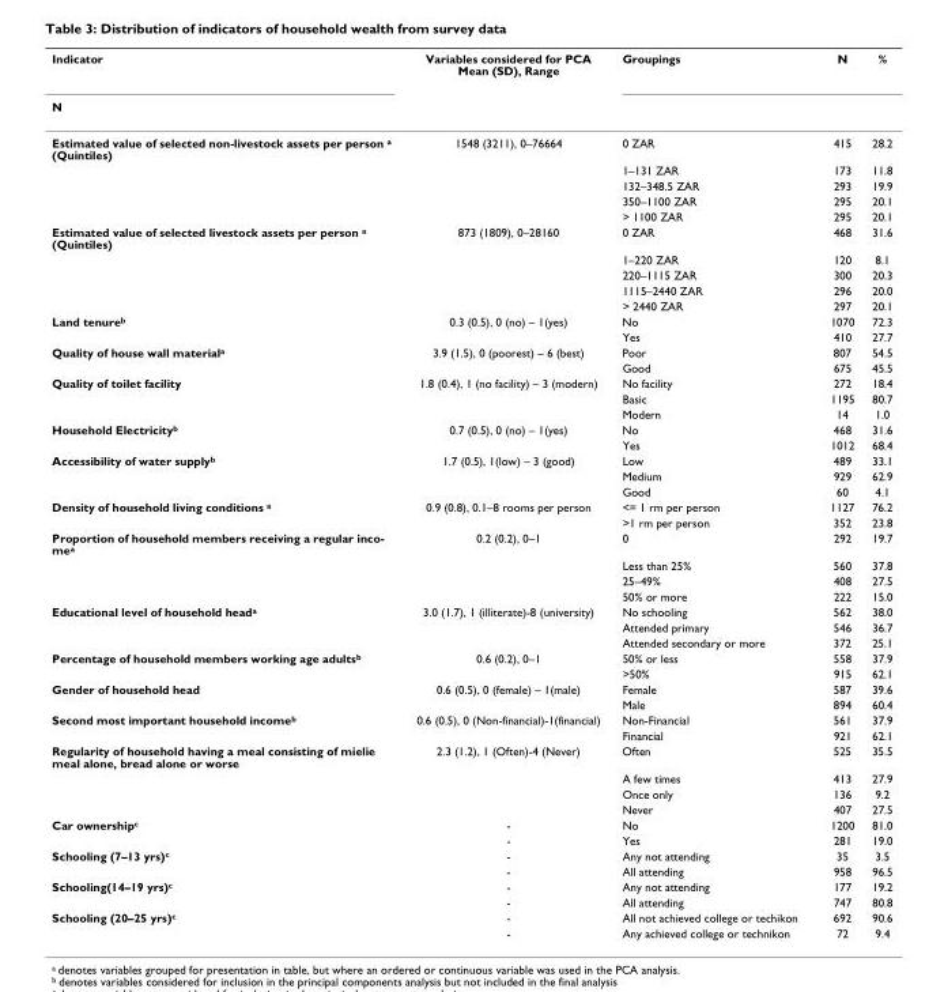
<table><thead><tr><td rowspan="2">Indicator N</td><td rowspan="2">Variables considered for PCA Mean (SD), Range</td><td rowspan="2">Groupings</td><td rowspan="2">N</td><td rowspan="2">%</td></tr><tr></tr></thead><tbody><tr><td rowspan="5">Estimated value of selected non-livestock assets per person <sup>a</sup> (Quintiles)</td><td>1548 (3211), 0–76664</td><td>0 ZAR</td><td>415</td><td>28.2</td></tr><tr><td></td><td>1–131 ZAR</td><td>173</td><td>11.8</td></tr><tr><td></td><td>132–348.5 ZAR</td><td>293</td><td>19.9</td></tr><tr><td></td><td>350–1100 ZAR</td><td>295</td><td>20.1</td></tr><tr><td></td><td>&gt; 1100 ZAR</td><td>295</td><td>20.1</td></tr><tr><td rowspan="5">Estimated value of selected livestock assets per person <sup>a</sup> (Quintiles)</td><td>873 (1809), 0–28160</td><td>0 ZAR</td><td>468</td><td>31.6</td></tr><tr><td></td><td>1–220 ZAR</td><td>120</td><td>8.1</td></tr><tr><td></td><td>220–1115 ZAR</td><td>300</td><td>20.3</td></tr><tr><td></td><td>1115–2440 ZAR</td><td>296</td><td>20.0</td></tr><tr><td></td><td>&gt; 2440 ZAR</td><td>297</td><td>20.1</td></tr><tr><td rowspan="2">Land tenure<sup>b</sup></td><td>0.3 (0.5), 0 (no) – 1(yes)</td><td>No</td><td>1070</td><td>72.3</td></tr><tr><td></td><td>Yes</td><td>410</td><td>27.7</td></tr><tr><td rowspan="2">Quality of house wall material<sup>a</sup></td><td>3.9 (1.5), 0 (poorest) – 6 (best)</td><td>Poor</td><td>807</td><td>54.5</td></tr><tr><td></td><td>Good</td><td>675</td><td>45.5</td></tr><tr><td rowspan="3">Quality of toilet facility</td><td>1.8 (0.4), 1 (no facility) – 3 (modern)</td><td>No facility</td><td>272</td><td>18.4</td></tr><tr><td></td><td>Basic</td><td>1195</td><td>80.7</td></tr><tr><td></td><td>Modern</td><td>14</td><td>1.0</td></tr><tr><td rowspan="2">Household Electricity<sup>b</sup></td><td>0.7 (0.5), 0 (no) – 1(yes)</td><td>No</td><td>468</td><td>31.6</td></tr><tr><td></td><td>Yes</td><td>1012</td><td>68.4</td></tr><tr><td rowspan="3">Accessibility of water supply<sup>b</sup></td><td>1.7 (0.5), 1(low) – 3 (good)</td><td>Low</td><td>489</td><td>33.1</td></tr><tr><td></td><td>Medium</td><td>929</td><td>62.9</td></tr><tr><td></td><td>Good</td><td>60</td><td>4.1</td></tr><tr><td rowspan="2">Density of household living conditions <sup>a</sup></td><td>0.9 (0.8), 0.1–8 rooms per person</td><td>&lt;= 1 rm per person</td><td>1127</td><td>76.2</td></tr><tr><td></td><td>&gt;1 rm per person</td><td>352</td><td>23.8</td></tr><tr><td rowspan="4">Proportion of household members receiving a regular inco- mea</td><td>0.2 (0.2), 0–1</td><td>0</td><td>292</td><td>19.7</td></tr><tr><td></td><td>Less than 25%</td><td>560</td><td>37.8</td></tr><tr><td></td><td>25–49%</td><td>408</td><td>27.5</td></tr><tr><td></td><td>50% or more</td><td>222</td><td>15.0</td></tr><tr><td rowspan="3">Educational level of household head<sup>a</sup></td><td>3.0 (1.7), 1 (illiterate)-8 (university)</td><td>No schooling</td><td>562</td><td>38.0</td></tr><tr><td></td><td>Attended primary</td><td>546</td><td>36.7</td></tr><tr><td></td><td>Attended secondary or more</td><td>372</td><td>25.1</td></tr><tr><td rowspan="2">Percentage of household members working age adults<sup>b</sup></td><td>0.6 (0.2), 0–1</td><td>50% or less</td><td>558</td><td>37.9</td></tr><tr><td></td><td>&gt;50%</td><td>915</td><td>62.1</td></tr><tr><td rowspan="2">Gender of household head</td><td>0.6 (0.5), 0 (female) – 1(male)</td><td>Female</td><td>587</td><td>39.6</td></tr><tr><td></td><td>Male</td><td>894</td><td>60.4</td></tr><tr><td rowspan="2">Second most important household income<sup>b</sup></td><td>0.6 (0.5), 0 (Non-financial)-1(financial)</td><td>Non-Financial</td><td>561</td><td>37.9</td></tr><tr><td></td><td>Financial</td><td>921</td><td>62.1</td></tr><tr><td rowspan="4">Regularity of household having a meal consisting of mielie meal alone, bread alone or worse</td><td>2.3 (1.2), 1 (Often)-4 (Never)</td><td>Often</td><td>525</td><td>35.5</td></tr><tr><td></td><td>A few times</td><td>413</td><td>27.9</td></tr><tr><td></td><td>Once only</td><td>136</td><td>9.2</td></tr><tr><td></td><td>Never</td><td>407</td><td>27.5</td></tr><tr><td rowspan="2">Car ownership<sup>c</sup></td><td>-</td><td>No</td><td>1200</td><td>81.0</td></tr><tr><td>-</td><td>Yes</td><td>281</td><td>19.0</td></tr><tr><td rowspan="2">Schooling (7–13 yrs)<sup>c</sup></td><td>-</td><td>Any not attending</td><td>35</td><td>3.5</td></tr><tr><td>-</td><td>All attending</td><td>958</td><td>96.5</td></tr><tr><td rowspan="2">Schooling(14–19 yrs)<sup>c</sup></td><td>-</td><td>Any not attending</td><td>177</td><td>19.2</td></tr><tr><td>-</td><td>All attending</td><td>747</td><td>80.8</td></tr><tr><td rowspan="2">Schooling (20–25 yrs)<sup>c</sup></td><td>-</td><td>All not achieved college or techikon</td><td>692</td><td>90.6</td></tr><tr><td>-</td><td>Any achieved college or technikon</td><td>72</td><td>9.4</td></tr></tbody></table>